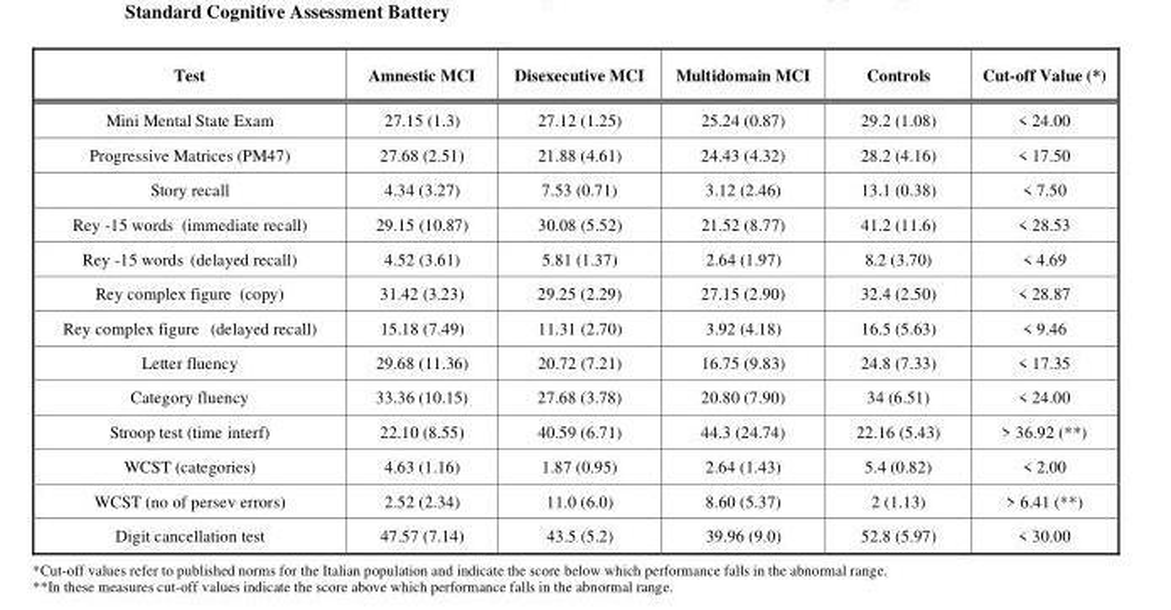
<table><thead><tr><td>Test</td><td>Amnestic MCI</td><td>Disexecutive MCI</td><td>Multidomain MCI</td><td>Controls</td><td>Cut-off Value (*)</td></tr></thead><tbody><tr><td>Mini Mental State Exam</td><td>27.15 (1.3)</td><td>27.12 (1.25)</td><td>25.24 (0.87)</td><td>29.2 (1.08)</td><td>&lt; 24.00</td></tr><tr><td>Progressive Matrices (PM47)</td><td>27.68 (2.51)</td><td>21.88 (4.61)</td><td>24.43 (4.32)</td><td>28.2 (4.16)</td><td>&lt; 17.50</td></tr><tr><td>Story recall</td><td>4.34 (3.27)</td><td>7.53 (0.71)</td><td>3.12 (2.46)</td><td>13.1 (0.38)</td><td>&lt; 7.50</td></tr><tr><td>Rey -15 words (immediate recall)</td><td>29.15 (10.87)</td><td>30.08 (5.52)</td><td>21.52 (8.77)</td><td>41.2 (11.6)</td><td>&lt; 28.53</td></tr><tr><td>Rey -15 words (delayed recall)</td><td>4.52 (3.61)</td><td>5.81 (1.37)</td><td>2.64 (1.97)</td><td>8.2 (3.70)</td><td>&lt; 4.69</td></tr><tr><td>Rey complex figure (copy)</td><td>31.42 (3.23)</td><td>29.25 (2.29)</td><td>27.15 (2.90)</td><td>32.4 (2.50)</td><td>&lt; 28.87</td></tr><tr><td>Rey complex figure (delayed recall)</td><td>15.18 (7.49)</td><td>11.31 (2.70)</td><td>3.92 (4.18)</td><td>16.5 (5.63)</td><td>&lt; 9.46</td></tr><tr><td>Letter fluency</td><td>29.68 (11.36)</td><td>20.72 (7.21)</td><td>16.75 (9.83)</td><td>24.8 (7.33)</td><td>&lt; 17.35</td></tr><tr><td>Category fluency</td><td>33.36 (10.15)</td><td>27.68 (3.78)</td><td>20.80 (7.90)</td><td>34 (6.51)</td><td>&lt; 24.00</td></tr><tr><td>Stroop test (time interf)</td><td>22.10 (8.55)</td><td>40.59 (6.71)</td><td>44.3 (24.74)</td><td>22.16 (5.43)</td><td>&gt; 36.92 (**)</td></tr><tr><td>WCST (categories)</td><td>4.63 (1.16)</td><td>1.87 (0.95)</td><td>2.64 (1.43)</td><td>5.4 (0.82)</td><td>&lt; 2.00</td></tr><tr><td>WCST (no of persev errors)</td><td>2.52 (2.34)</td><td>11.0 (6.0)</td><td>8.60 (5.37)</td><td>2 (1.13)</td><td>&gt; 6.41 (**)</td></tr><tr><td>Digit cancellation test</td><td>47.57 (7.14)</td><td>43.5 (5.2)</td><td>39.96 (9.0)</td><td>52.8 (5.97)</td><td>&lt; 30.00</td></tr></tbody></table>